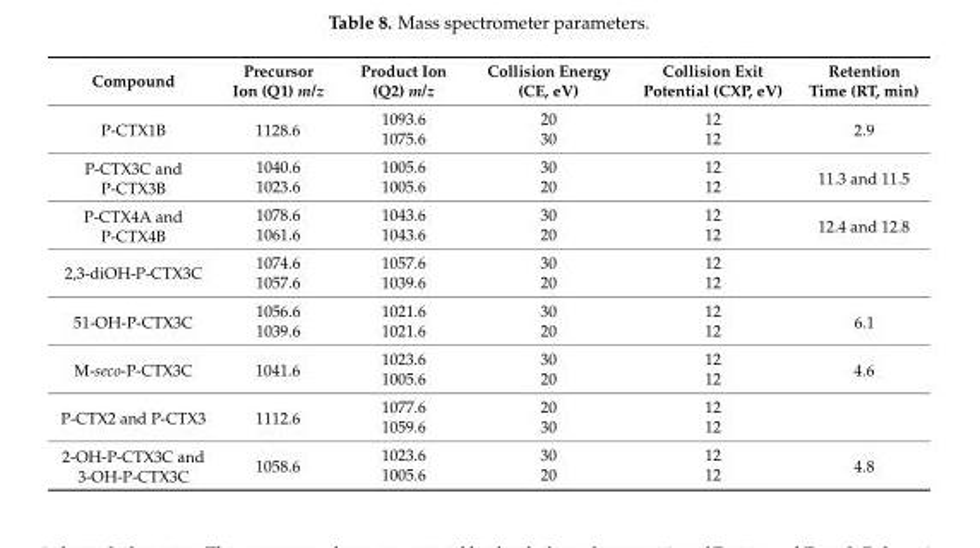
<table><thead><tr><td>Compound</td><td>Precursor Ion (Q1) m/z</td><td>Product Ion (Q2) m/z</td><td>Collision Energy (CE, eV)</td><td>Collision Exit Potential (CXP, eV)</td><td>Retention Time (RT, min)</td></tr></thead><tbody><tr><td rowspan="2">P-CTX1B</td><td rowspan="2">1128.6</td><td>1093.6</td><td>20</td><td>12</td><td rowspan="2">2.9</td></tr><tr><td>1075.6</td><td>30</td><td>12</td></tr><tr><td rowspan="2">P-CTX3C and P-CTX3B</td><td>1040.6</td><td>1005.6</td><td>30</td><td>12</td><td rowspan="2">11.3 and 11.5</td></tr><tr><td>1023.6</td><td>1005.6</td><td>20</td><td>12</td></tr><tr><td rowspan="2">P-CTX4A and P-CTX4B</td><td>1078.6</td><td>1043.6</td><td>30</td><td>12</td><td rowspan="2">12.4 and 12.8</td></tr><tr><td>1061.6</td><td>1043.6</td><td>20</td><td>12</td></tr><tr><td rowspan="2">2,3-diOH-P-CTX3C</td><td>1074.6</td><td>1057.6</td><td>30</td><td>12</td><td rowspan="2"></td></tr><tr><td>1057.6</td><td>1039.6</td><td>20</td><td>12</td></tr><tr><td rowspan="2">51-OH-P-CTX3C</td><td>1056.6</td><td>1021.6</td><td>30</td><td>12</td><td rowspan="2">6.1</td></tr><tr><td>1039.6</td><td>1021.6</td><td>20</td><td>12</td></tr><tr><td rowspan="2">M-seco-P-CTX3C</td><td rowspan="2">1041.6</td><td>1023.6</td><td>30</td><td>12</td><td rowspan="2">4.6</td></tr><tr><td>1005.6</td><td>20</td><td>12</td></tr><tr><td rowspan="2">P-CTX2 and P-CTX3</td><td rowspan="2">1112.6</td><td>1077.6</td><td>20</td><td>12</td><td rowspan="2"></td></tr><tr><td>1059.6</td><td>30</td><td>12</td></tr><tr><td rowspan="2">2-OH-P-CTX3C and 3-OH-P-CTX3C</td><td rowspan="2">1058.6</td><td>1023.6</td><td>30</td><td>12</td><td rowspan="2">4.8</td></tr><tr><td>1005.6</td><td>20</td><td>12</td></tr></tbody></table>